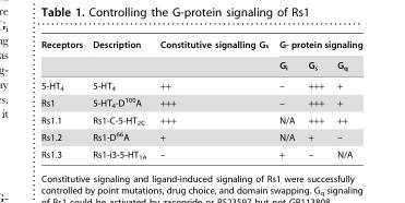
<table><thead><tr><td rowspan="2">Receptors</td><td rowspan="2">Description</td><td rowspan="2">Constitutive signalling G<sub>s</sub></td><td colspan="3">G- protein signaling</td></tr><tr><td>G<sub>i</sub></td><td>G<sub>s</sub></td><td>G<sub>q</sub></td></tr></thead><tbody><tr><td>5-HT<sub>4</sub></td><td>5-HT<sub>4</sub></td><td>++</td><td>–</td><td>+++</td><td>+</td></tr><tr><td>Rs1</td><td>5-HT<sub>4</sub>-D<sup>100</sup>A</td><td>+++</td><td>–</td><td>+++</td><td>+</td></tr><tr><td>Rs1.1</td><td>Rs1-C-5-HT<sub>2C</sub></td><td>+++</td><td>N/A</td><td>+++</td><td>++</td></tr><tr><td>Rs1.2</td><td>Rs1-D<sup>66</sup>A</td><td>+</td><td>N/A</td><td>+</td><td>–</td></tr><tr><td>Rs1.3</td><td>Rs1-i3-5-HT<sub>1A</sub></td><td>–</td><td>+</td><td>–</td><td>N/A</td></tr></tbody></table>